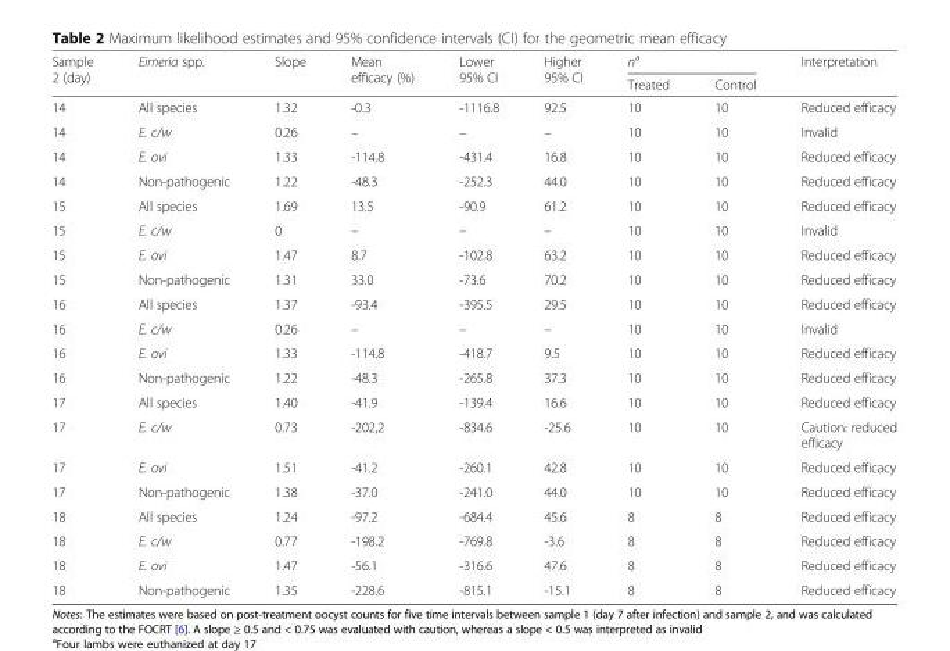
<table><thead><tr><td rowspan="2">Sample 2 (day)</td><td rowspan="2">Eimeria spp.</td><td rowspan="2">Slope</td><td rowspan="2">Mean efficacy (%)</td><td rowspan="2">Lower 95% CI</td><td rowspan="2">Higher 95% CI</td><td colspan="2">n<sup>a</sup></td><td rowspan="2">Interpretation</td></tr><tr><td>Treated</td><td>Control</td></tr></thead><tbody><tr><td>14</td><td>All species</td><td>1.32</td><td>-0.3</td><td>-1116.8</td><td>92.5</td><td>10</td><td>10</td><td>Reduced efficacy</td></tr><tr><td>14</td><td>E. c/w</td><td>0.26</td><td>–</td><td>–</td><td>–</td><td>10</td><td>10</td><td>Invalid</td></tr><tr><td>14</td><td>E. ovi</td><td>1.33</td><td>-114.8</td><td>-431.4</td><td>16.8</td><td>10</td><td>10</td><td>Reduced efficacy</td></tr><tr><td>14</td><td>Non-pathogenic</td><td>1.22</td><td>-48.3</td><td>-252.3</td><td>44.0</td><td>10</td><td>10</td><td>Reduced efficacy</td></tr><tr><td>15</td><td>All species</td><td>1.69</td><td>13.5</td><td>-90.9</td><td>61.2</td><td>10</td><td>10</td><td>Reduced efficacy</td></tr><tr><td>15</td><td>E. c/w</td><td>0</td><td>–</td><td>–</td><td>–</td><td>10</td><td>10</td><td>Invalid</td></tr><tr><td>15</td><td>E. ovi</td><td>1.47</td><td>8.7</td><td>-102.8</td><td>63.2</td><td>10</td><td>10</td><td>Reduced efficacy</td></tr><tr><td>15</td><td>Non-pathogenic</td><td>1.31</td><td>33.0</td><td>-73.6</td><td>70.2</td><td>10</td><td>10</td><td>Reduced efficacy</td></tr><tr><td>16</td><td>All species</td><td>1.37</td><td>-93.4</td><td>-395.5</td><td>29.5</td><td>10</td><td>10</td><td>Reduced efficacy</td></tr><tr><td>16</td><td>E. c/w</td><td>0.26</td><td>–</td><td>–</td><td>–</td><td>10</td><td>10</td><td>Invalid</td></tr><tr><td>16</td><td>E. ovi</td><td>1.33</td><td>-114.8</td><td>-418.7</td><td>9.5</td><td>10</td><td>10</td><td>Reduced efficacy</td></tr><tr><td>16</td><td>Non-pathogenic</td><td>1.22</td><td>-48.3</td><td>-265.8</td><td>37.3</td><td>10</td><td>10</td><td>Reduced efficacy</td></tr><tr><td>17</td><td>All species</td><td>1.40</td><td>-41.9</td><td>-139.4</td><td>16.6</td><td>10</td><td>10</td><td>Reduced efficacy</td></tr><tr><td>17</td><td>E. c/w</td><td>0.73</td><td>-202,2</td><td>-834.6</td><td>-25.6</td><td>10</td><td>10</td><td>Caution: reduced efficacy</td></tr><tr><td>17</td><td>E. ovi</td><td>1.51</td><td>-41.2</td><td>-260.1</td><td>42.8</td><td>10</td><td>10</td><td>Reduced efficacy</td></tr><tr><td>17</td><td>Non-pathogenic</td><td>1.38</td><td>-37.0</td><td>-241.0</td><td>44.0</td><td>10</td><td>10</td><td>Reduced efficacy</td></tr><tr><td>18</td><td>All species</td><td>1.24</td><td>-97.2</td><td>-684.4</td><td>45.6</td><td>8</td><td>8</td><td>Reduced efficacy</td></tr><tr><td>18</td><td>E. c/w</td><td>0.77</td><td>-198.2</td><td>-769.8</td><td>-3.6</td><td>8</td><td>8</td><td>Reduced efficacy</td></tr><tr><td>18</td><td>E. ovi</td><td>1.47</td><td>-56.1</td><td>-316.6</td><td>47.6</td><td>8</td><td>8</td><td>Reduced efficacy</td></tr><tr><td>18</td><td>Non-pathogenic</td><td>1.35</td><td>-228.6</td><td>-815.1</td><td>-15.1</td><td>8</td><td>8</td><td>Reduced efficacy</td></tr></tbody></table>